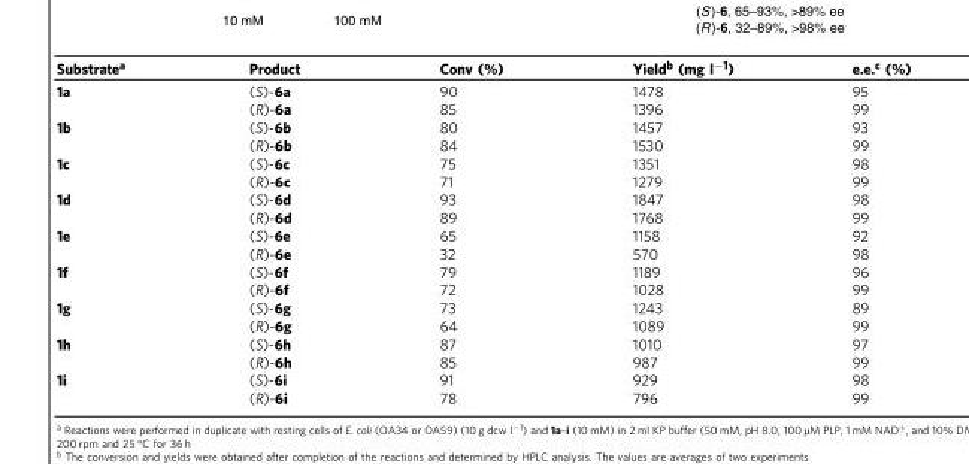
<table><thead><tr><td>Substrate<sup>a</sup></td><td>Product</td><td>Conv (%)</td><td>Yield<sup>b</sup> (mg l<sup>−1</sup>)</td><td>e.e.<sup>c</sup> (%)</td></tr></thead><tbody><tr><td rowspan="2">1a</td><td>(S)-6a</td><td>90</td><td>1478</td><td>95</td></tr><tr><td>(R)-6a</td><td>85</td><td>1396</td><td>99</td></tr><tr><td rowspan="2">1b</td><td>(S)-6b</td><td>80</td><td>1457</td><td>93</td></tr><tr><td>(R)-6b</td><td>84</td><td>1530</td><td>99</td></tr><tr><td rowspan="2">1c</td><td>(S)-6c</td><td>75</td><td>1351</td><td>98</td></tr><tr><td>(R)-6c</td><td>71</td><td>1279</td><td>99</td></tr><tr><td rowspan="2">1d</td><td>(S)-6d</td><td>93</td><td>1847</td><td>98</td></tr><tr><td>(R)-6d</td><td>89</td><td>1768</td><td>99</td></tr><tr><td rowspan="2">1e</td><td>(S)-6e</td><td>65</td><td>1158</td><td>92</td></tr><tr><td>(R)-6e</td><td>32</td><td>570</td><td>98</td></tr><tr><td rowspan="2">1f</td><td>(S)-6f</td><td>79</td><td>1189</td><td>96</td></tr><tr><td>(R)-6f</td><td>72</td><td>1028</td><td>99</td></tr><tr><td rowspan="2">1g</td><td>(S)-6g</td><td>73</td><td>1243</td><td>89</td></tr><tr><td>(R)-6g</td><td>64</td><td>1089</td><td>99</td></tr><tr><td rowspan="2">1h</td><td>(S)-6h</td><td>87</td><td>1010</td><td>97</td></tr><tr><td>(R)-6h</td><td>85</td><td>987</td><td>99</td></tr><tr><td rowspan="2">1i</td><td>(S)-6i</td><td>91</td><td>929</td><td>98</td></tr><tr><td>(R)-6i</td><td>78</td><td>796</td><td>99</td></tr></tbody></table>